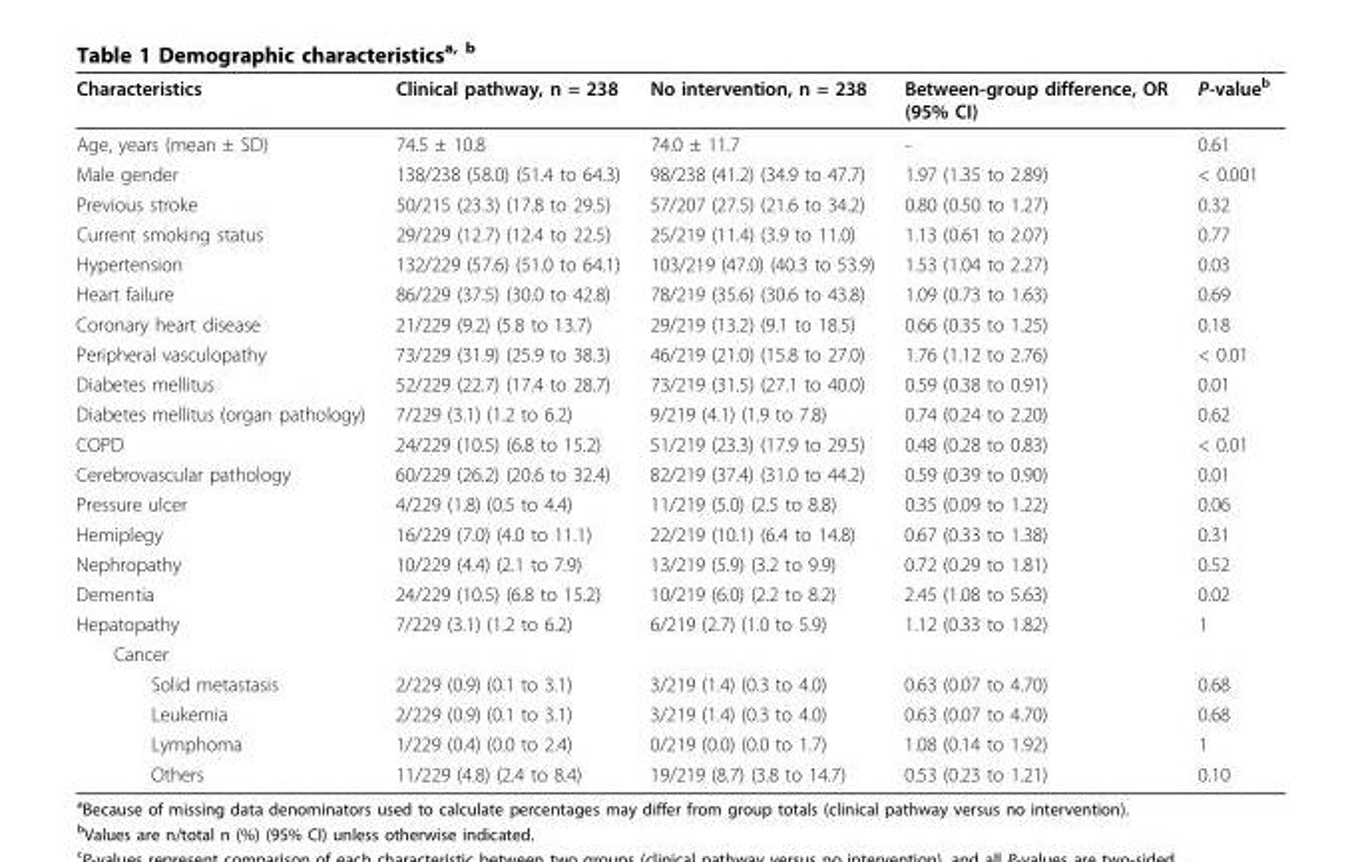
<table><thead><tr><td>Characteristics</td><td>Clinical pathway, n = 238</td><td>No intervention, n = 238</td><td>Between-group difference, OR (95% CI)</td><td>P-value<sup>b</sup></td></tr></thead><tbody><tr><td>Age, years (mean ± SD)</td><td>74.5 ± 10.8</td><td>74.0 ± 11.7</td><td>-</td><td>0.61</td></tr><tr><td>Male gender</td><td>138/238 (58.0) (51.4 to 64.3)</td><td>98/238 (41.2) (34.9 to 47.7)</td><td>1.97 (1.35 to 2.89)</td><td>&lt; 0.001</td></tr><tr><td>Previous stroke</td><td>50/215 (23.3) (17.8 to 29.5)</td><td>57/207 (27.5) (21.6 to 34.2)</td><td>0.80 (0.50 to 1.27)</td><td>0.32</td></tr><tr><td>Current smoking status</td><td>29/229 (12.7) (12.4 to 22.5)</td><td>25/219 (11.4) (3.9 to 11.0)</td><td>1.13 (0.61 to 2.07)</td><td>0.77</td></tr><tr><td>Hypertension</td><td>132/229 (57.6) (51.0 to 64.1)</td><td>103/219 (47.0) (40.3 to 53.9)</td><td>1.53 (1.04 to 2.27)</td><td>0.03</td></tr><tr><td>Heart failure</td><td>86/229 (37.5) (30.0 to 42.8)</td><td>78/219 (35.6) (30.6 to 43.8)</td><td>1.09 (0.73 to 1.63)</td><td>0.69</td></tr><tr><td>Coronary heart disease</td><td>21/229 (9.2) (5.8 to 13.7)</td><td>29/219 (13.2) (9.1 to 18.5)</td><td>0.66 (0.35 to 1.25)</td><td>0.18</td></tr><tr><td>Peripheral vasculopathy</td><td>73/229 (31.9) (25.9 to 38.3)</td><td>46/219 (21.0) (15.8 to 27.0)</td><td>1.76 (1.12 to 2.76)</td><td>&lt; 0.01</td></tr><tr><td>Diabetes mellitus</td><td>52/229 (22.7) (17.4 to 28.7)</td><td>73/219 (31.5) (27.1 to 40.0)</td><td>0.59 (0.38 to 0.91)</td><td>0.01</td></tr><tr><td>Diabetes mellitus (organ pathology)</td><td>7/229 (3.1) (1.2 to 6.2)</td><td>9/219 (4.1) (1.9 to 7.8)</td><td>0.74 (0.24 to 2.20)</td><td>0.62</td></tr><tr><td>COPD</td><td>24/229 (10.5) (6.8 to 15.2)</td><td>51/219 (23.3) (17.9 to 29.5)</td><td>0.48 (0.28 to 0.83)</td><td>&lt; 0.01</td></tr><tr><td>Cerebrovascular pathology</td><td>60/229 (26.2) (20.6 to 32.4)</td><td>82/219 (37.4) (31.0 to 44.2)</td><td>0.59 (0.39 to 0.90)</td><td>0.01</td></tr><tr><td>Pressure ulcer</td><td>4/229 (1.8) (0.5 to 4.4)</td><td>11/219 (5.0) (2.5 to 8.8)</td><td>0.35 (0.09 to 1.22)</td><td>0.06</td></tr><tr><td>Hemiplegy</td><td>16/229 (7.0) (4.0 to 11.1)</td><td>22/219 (10.1) (6.4 to 14.8)</td><td>0.67 (0.33 to 1.38)</td><td>0.31</td></tr><tr><td>Nephropathy</td><td>10/229 (4.4) (2.1 to 7.9)</td><td>13/219 (5.9) (3.2 to 9.9)</td><td>0.72 (0.29 to 1.81)</td><td>0.52</td></tr><tr><td>Dementia</td><td>24/229 (10.5) (6.8 to 15.2)</td><td>10/219 (6.0) (2.2 to 8.2)</td><td>2.45 (1.08 to 5.63)</td><td>0.02</td></tr><tr><td>Hepatopathy</td><td>7/229 (3.1) (1.2 to 6.2)</td><td>6/219 (2.7) (1.0 to 5.9)</td><td>1.12 (0.33 to 1.82)</td><td>1</td></tr><tr><td colspan="5">Cancer</td></tr><tr><td>Solid metastasis</td><td>2/229 (0.9) (0.1 to 3.1)</td><td>3/219 (1.4) (0.3 to 4.0)</td><td>0.63 (0.07 to 4.70)</td><td>0.68</td></tr><tr><td>Leukemia</td><td>2/229 (0.9) (0.1 to 3.1)</td><td>3/219 (1.4) (0.3 to 4.0)</td><td>0.63 (0.07 to 4.70)</td><td>0.68</td></tr><tr><td>Lymphoma</td><td>1/229 (0.4) (0.0 to 2.4)</td><td>0/219 (0.0) (0.0 to 1.7)</td><td>1.08 (0.14 to 1.92)</td><td>1</td></tr><tr><td>Others</td><td>11/229 (4.8) (2.4 to 8.4)</td><td>19/219 (8.7) (3.8 to 14.7)</td><td>0.53 (0.23 to 1.21)</td><td>0.10</td></tr></tbody></table>